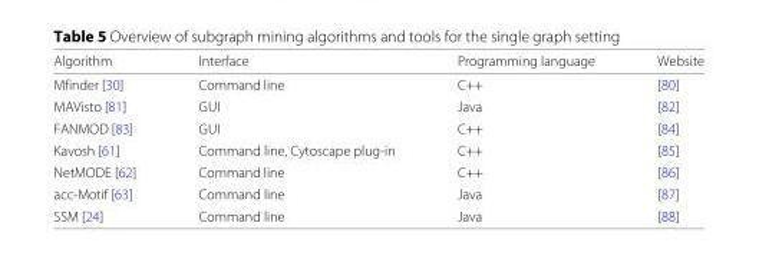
<table><thead><tr><td>Algorithm</td><td>Interface</td><td>Programming language</td><td>Website</td></tr></thead><tbody><tr><td>Mfinder [30]</td><td>Command line</td><td>C++</td><td>[80]</td></tr><tr><td>MAVisto [81]</td><td>GUI</td><td>Java</td><td>[82]</td></tr><tr><td>FANMOD [83]</td><td>GUI</td><td>C++</td><td>[84]</td></tr><tr><td>Kavosh [61]</td><td>Command line, Cytoscape plug-in</td><td>C++</td><td>[85]</td></tr><tr><td>NetMODE [62]</td><td>Command line</td><td>C++</td><td>[86]</td></tr><tr><td>acc-Motif [63]</td><td>Command line</td><td>Java</td><td>[87]</td></tr><tr><td>SSM [24]</td><td>Command line</td><td>Java</td><td>[88]</td></tr></tbody></table>